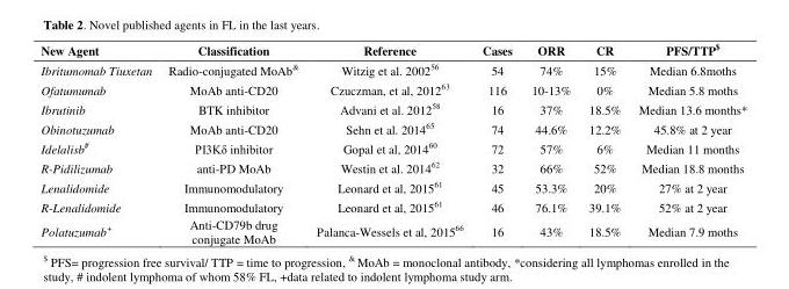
<table><thead><tr><td>New Agent</td><td>Classification</td><td>Reference</td><td>Cases</td><td>ORR</td><td>CR</td><td>PFS/TTP$</td></tr></thead><tbody><tr><td>Ibritumomab Tiuxetan</td><td>Radio-conjugated MoAb&amp;</td><td>Witzig et al. 2002<sup>56</sup></td><td>54</td><td>74%</td><td>15%</td><td>Median 6.8moths</td></tr><tr><td>Ofatumumab</td><td>MoAb anti-CD20</td><td>Czuczman, et al, 2012<sup>63</sup></td><td>116</td><td>10-13%</td><td>0%</td><td>Median 5.8 moths</td></tr><tr><td>Ibrutinib</td><td>BTK inhibitor</td><td>Advani et al. 2012<sup>58</sup></td><td>16</td><td>37%</td><td>18.5%</td><td>Median 13.6 months*</td></tr><tr><td>Obinotuzumab</td><td>MoAb anti-CD20</td><td>Sehn et al. 2014<sup>65</sup></td><td>74</td><td>44.6%</td><td>12.2%</td><td>45.8% at 2 year</td></tr><tr><td>Idelalisb#</td><td>PI3Kδ inhibitor</td><td>Gopal et al, 2014<sup>60</sup></td><td>72</td><td>57%</td><td>6%</td><td>Median 11 months</td></tr><tr><td>R-Pidilizumab</td><td>anti-PD MoAb</td><td>Westin et al. 2014<sup>62</sup></td><td>32</td><td>66%</td><td>52%</td><td>Median 18.8 months</td></tr><tr><td>Lenalidomide</td><td>Immunomodulatory</td><td>Leonard et al, 2015<sup>61</sup></td><td>45</td><td>53.3%</td><td>20%</td><td>27% at 2 year</td></tr><tr><td>R-Lenalidomide</td><td>Immunomodulatory</td><td>Leonard et al, 2015<sup>61</sup></td><td>46</td><td>76.1%</td><td>39.1%</td><td>52% at 2 year</td></tr><tr><td>Polatuzumab+</td><td>Anti-CD79b drug conjugate MoAb</td><td>Palanca-Wessels et al, 2015<sup>66</sup></td><td>16</td><td>43%</td><td>18.5%</td><td>Median 7.9 moths</td></tr></tbody></table>